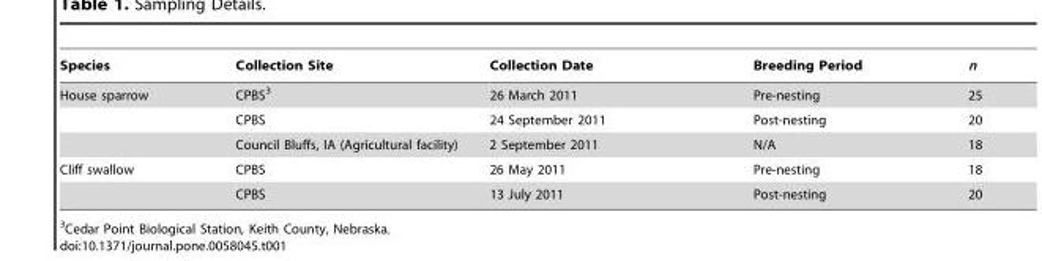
<table><thead><tr><td>Species</td><td>Collection Site</td><td>Collection Date</td><td>Breeding Period</td><td>n</td></tr></thead><tbody><tr><td rowspan="3">House sparrow</td><td>CPBS<sup>3</sup></td><td>26 March 2011</td><td>Pre-nesting</td><td>25</td></tr><tr><td>CPBS</td><td>24 September 2011</td><td>Post-nesting</td><td>20</td></tr><tr><td>Council Bluffs, IA (Agricultural facility)</td><td>2 September 2011</td><td>N/A</td><td>18</td></tr><tr><td rowspan="2">Cliff swallow</td><td>CPBS</td><td>26 May 2011</td><td>Pre-nesting</td><td>18</td></tr><tr><td>CPBS</td><td>13 July 2011</td><td>Post-nesting</td><td>20</td></tr></tbody></table>